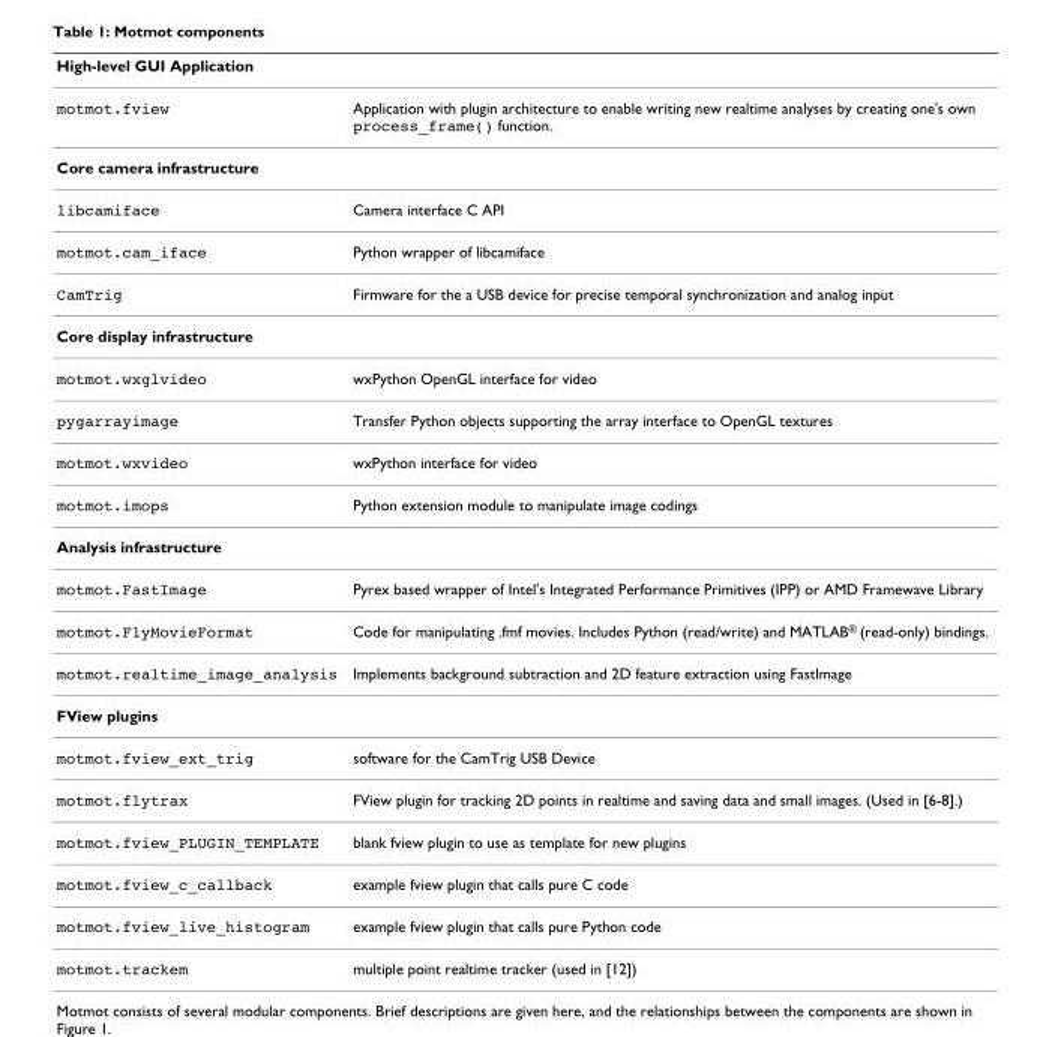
<table><thead><tr><td>High-level GUI Application</td><td></td></tr></thead><tbody><tr><td>motmot.fview</td><td>Application with plugin architecture to enable writing new realtime analyses by creating one&#x27;s own process_frame() function.</td></tr><tr><td colspan="2">Core camera infrastructure</td></tr><tr><td>libcamiface</td><td>Camera interface C API</td></tr><tr><td>motmot.cam_iface</td><td>Python wrapper of libcamiface</td></tr><tr><td>CamTrig</td><td>Firmware for the a USB device for precise temporal synchronization and analog input</td></tr><tr><td colspan="2">Core display infrastructure</td></tr><tr><td>motmot.wxglvideo</td><td>wxPython OpenGL interface for video</td></tr><tr><td>pygarrayimage</td><td>Transfer Python objects supporting the array interface to OpenGL textures</td></tr><tr><td>motmot.wxvideo</td><td>wxPython interface for video</td></tr><tr><td>motmot.imops</td><td>Python extension module to manipulate image codings</td></tr><tr><td colspan="2">Analysis infrastructure</td></tr><tr><td>motmot.FastImage</td><td>Pyrex based wrapper of Intel&#x27;s Integrated Performance Primitives (IPP) or AMD Framewave Library</td></tr><tr><td>motmot.FlyMovieFormat</td><td>Code for manipulating .fmf movies. Includes Python (read/write) and MATLAB<sup>®</sup> (read-only) bindings.</td></tr><tr><td>motmot.realtime_image_analysis</td><td>Implements background subtraction and 2D feature extraction using FastImage</td></tr><tr><td colspan="2">FView plugins</td></tr><tr><td>motmot.fview_ext_trig</td><td>software for the CamTrig USB Device</td></tr><tr><td>motmot.flytrax</td><td>FView plugin for tracking 2D points in realtime and saving data and small images. (Used in [6-8].)</td></tr><tr><td>motmot.fview_PLUGIN_TEMPLATE</td><td>blank fview plugin to use as template for new plugins</td></tr><tr><td>motmot.fview_c_callback</td><td>example fview plugin that calls pure C code</td></tr><tr><td>motmot.fview_live_histogram</td><td>example fview plugin that calls pure Python code</td></tr><tr><td>motmot.trackem</td><td>multiple point realtime tracker (used in [12])</td></tr></tbody></table>